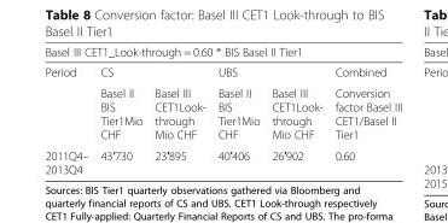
<table><thead><tr><td colspan="6">Basel III CET1_Look-through = 0.60 * BIS Basel II Tier1</td></tr><tr><td rowspan="2">Period</td><td colspan="2">CS</td><td colspan="2">UBS</td><td rowspan="2">Combined Conversion factor Basel III CET1/Basel II Tier1</td></tr><tr><td>Basel II BIS Tier1Mio CHF</td><td>Basel III CET1Look- through Mio CHF</td><td>Basel II BIS Tier1Mio CHF</td><td>Basel III CET1Look- through Mio CHF</td></tr></thead><tbody><tr><td>2011Q4– 2013Q4</td><td>43′730</td><td>23′895</td><td>40′406</td><td>26′902</td><td>0.60</td></tr></tbody></table>